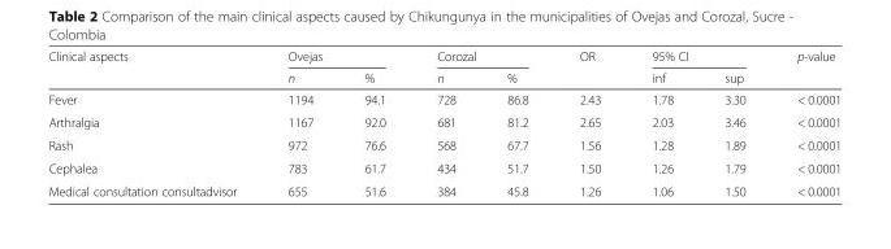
<table><thead><tr><td rowspan="2">Clinical aspects</td><td colspan="2">Ovejas</td><td colspan="2">Corozal</td><td rowspan="2">OR</td><td colspan="2">95% CI</td><td rowspan="2">p-value</td></tr><tr><td>n</td><td>%</td><td>n</td><td>%</td><td>inf</td><td>sup</td></tr></thead><tbody><tr><td>Fever</td><td>1194</td><td>94.1</td><td>728</td><td>86.8</td><td>2.43</td><td>1.78</td><td>3.30</td><td>&lt; 0.0001</td></tr><tr><td>Arthralgia</td><td>1167</td><td>92.0</td><td>681</td><td>81.2</td><td>2.65</td><td>2.03</td><td>3.46</td><td>&lt; 0.0001</td></tr><tr><td>Rash</td><td>972</td><td>76.6</td><td>568</td><td>67.7</td><td>1.56</td><td>1.28</td><td>1.89</td><td>&lt; 0.0001</td></tr><tr><td>Cephalea</td><td>783</td><td>61.7</td><td>434</td><td>51.7</td><td>1.50</td><td>1.26</td><td>1.79</td><td>&lt; 0.0001</td></tr><tr><td>Medical consultation consultadvisor</td><td>655</td><td>51.6</td><td>384</td><td>45.8</td><td>1.26</td><td>1.06</td><td>1.50</td><td>&lt; 0.0001</td></tr></tbody></table>